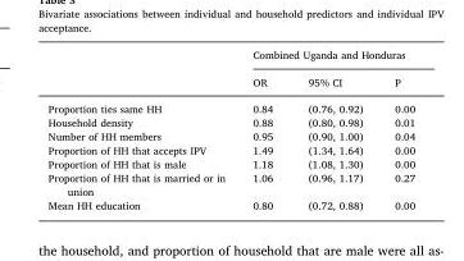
<table><thead><tr><td rowspan="2"></td><td colspan="3">Combined Uganda and Honduras</td></tr><tr><td>OR</td><td>95% CI</td><td>P</td></tr></thead><tbody><tr><td>Proportion ties same HH</td><td>0.84</td><td>(0.76, 0.92)</td><td>0.00</td></tr><tr><td>Household density</td><td>0.88</td><td>(0.80, 0.98)</td><td>0.01</td></tr><tr><td>Number of HH members</td><td>0.95</td><td>(0.90, 1.00)</td><td>0.04</td></tr><tr><td>Proportion of HH that accepts IPV</td><td>1.49</td><td>(1.34, 1.64)</td><td>0.00</td></tr><tr><td>Proportion of HH that is male</td><td>1.18</td><td>(1.08, 1.30)</td><td>0.00</td></tr><tr><td>Proportion of HH that is married or in union</td><td>1.06</td><td>(0.96, 1.17)</td><td>0.27</td></tr><tr><td>Mean HH education</td><td>0.80</td><td>(0.72, 0.88)</td><td>0.00</td></tr></tbody></table>